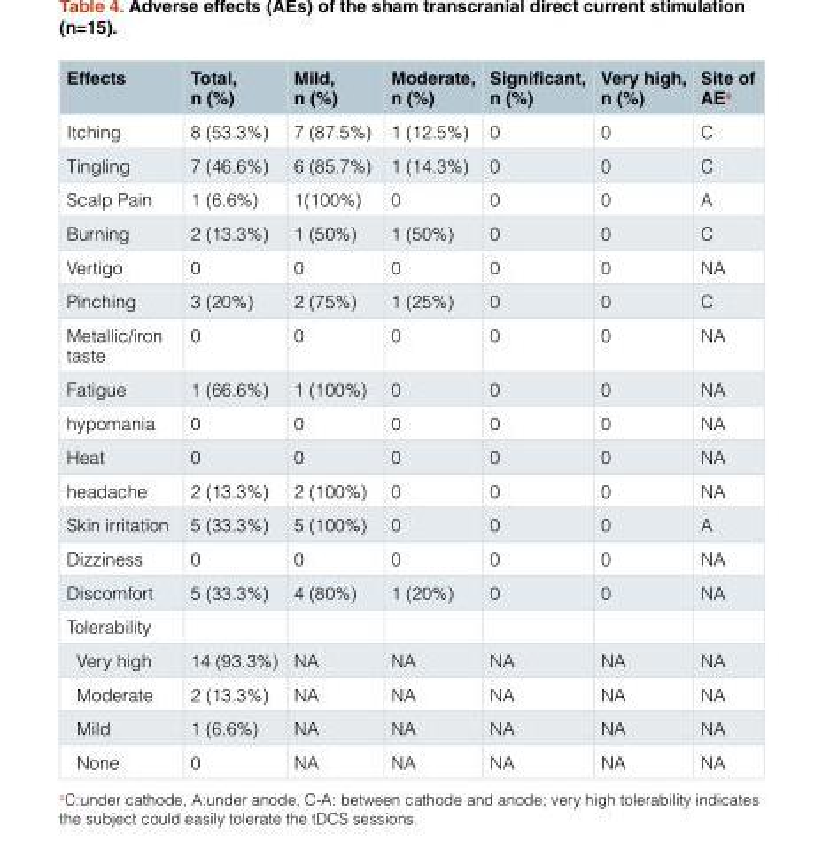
<table><thead><tr><td>Effects</td><td>Total, n (%)</td><td>Mild, n (%)</td><td>Moderate, n (%)</td><td>Significant, n (%)</td><td>Very high, n (%)</td><td>Site of AE<sup>a</sup></td></tr></thead><tbody><tr><td>Itching</td><td>8 (53.3%)</td><td>7 (87.5%)</td><td>1 (12.5%)</td><td>0</td><td>0</td><td>C</td></tr><tr><td>Tingling</td><td>7 (46.6%)</td><td>6 (85.7%)</td><td>1 (14.3%)</td><td>0</td><td>0</td><td>C</td></tr><tr><td>Scalp Pain</td><td>1 (6.6%)</td><td>1(100%)</td><td>0</td><td>0</td><td>0</td><td>A</td></tr><tr><td>Burning</td><td>2 (13.3%)</td><td>1 (50%)</td><td>1 (50%)</td><td>0</td><td>0</td><td>C</td></tr><tr><td>Vertigo</td><td>0</td><td>0</td><td>0</td><td>0</td><td>0</td><td>NA</td></tr><tr><td>Pinching</td><td>3 (20%)</td><td>2 (75%)</td><td>1 (25%)</td><td>0</td><td>0</td><td>C</td></tr><tr><td>Metallic/iron taste</td><td>0</td><td>0</td><td>0</td><td>0</td><td>0</td><td>NA</td></tr><tr><td>Fatigue</td><td>1 (66.6%)</td><td>1 (100%)</td><td>0</td><td>0</td><td>0</td><td>NA</td></tr><tr><td>hypomania</td><td>0</td><td>0</td><td>0</td><td>0</td><td>0</td><td>NA</td></tr><tr><td>Heat</td><td>0</td><td>0</td><td>0</td><td>0</td><td>0</td><td>NA</td></tr><tr><td>headache</td><td>2 (13.3%)</td><td>2 (100%)</td><td>0</td><td>0</td><td>0</td><td>NA</td></tr><tr><td>Skin irritation</td><td>5 (33.3%)</td><td>5 (100%)</td><td>0</td><td>0</td><td>0</td><td>A</td></tr><tr><td>Dizziness</td><td>0</td><td>0</td><td>0</td><td>0</td><td>0</td><td>NA</td></tr><tr><td>Discomfort</td><td>5 (33.3%)</td><td>4 (80%)</td><td>1 (20%)</td><td>0</td><td>0</td><td>NA</td></tr><tr><td colspan="7">Tolerability</td></tr><tr><td>Very high</td><td>14 (93.3%)</td><td>NA</td><td>NA</td><td>NA</td><td>NA</td><td>NA</td></tr><tr><td>Moderate</td><td>2 (13.3%)</td><td>NA</td><td>NA</td><td>NA</td><td>NA</td><td>NA</td></tr><tr><td>Mild</td><td>1 (6.6%)</td><td>NA</td><td>NA</td><td>NA</td><td>NA</td><td>NA</td></tr><tr><td>None</td><td>0</td><td>NA</td><td>NA</td><td>NA</td><td>NA</td><td>NA</td></tr></tbody></table>